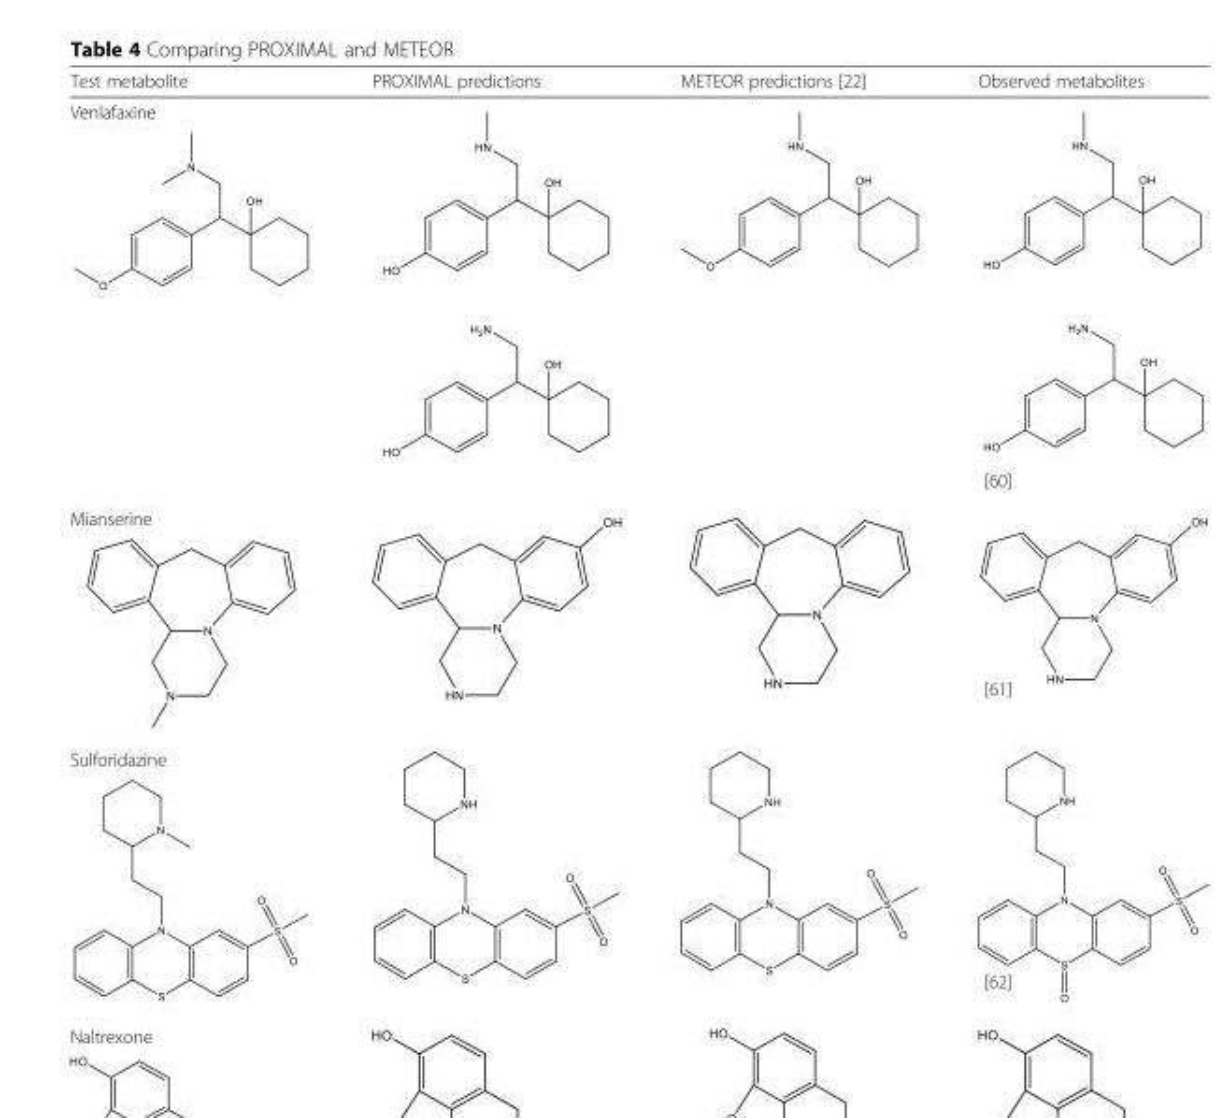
<table><thead><tr><td>Test metabolite</td><td>PROXIMAL predictions</td><td>METEOR predictions [22]</td><td>Observed metabolites</td></tr></thead><tbody><tr><td>Venlafaxine</td><td></td><td></td><td>[60]</td></tr><tr><td>Mianserine</td><td></td><td></td><td>[61]</td></tr><tr><td>Sulforidazine</td><td></td><td></td><td>[62]</td></tr><tr><td>Naltrexone</td><td></td><td></td><td></td></tr></tbody></table>